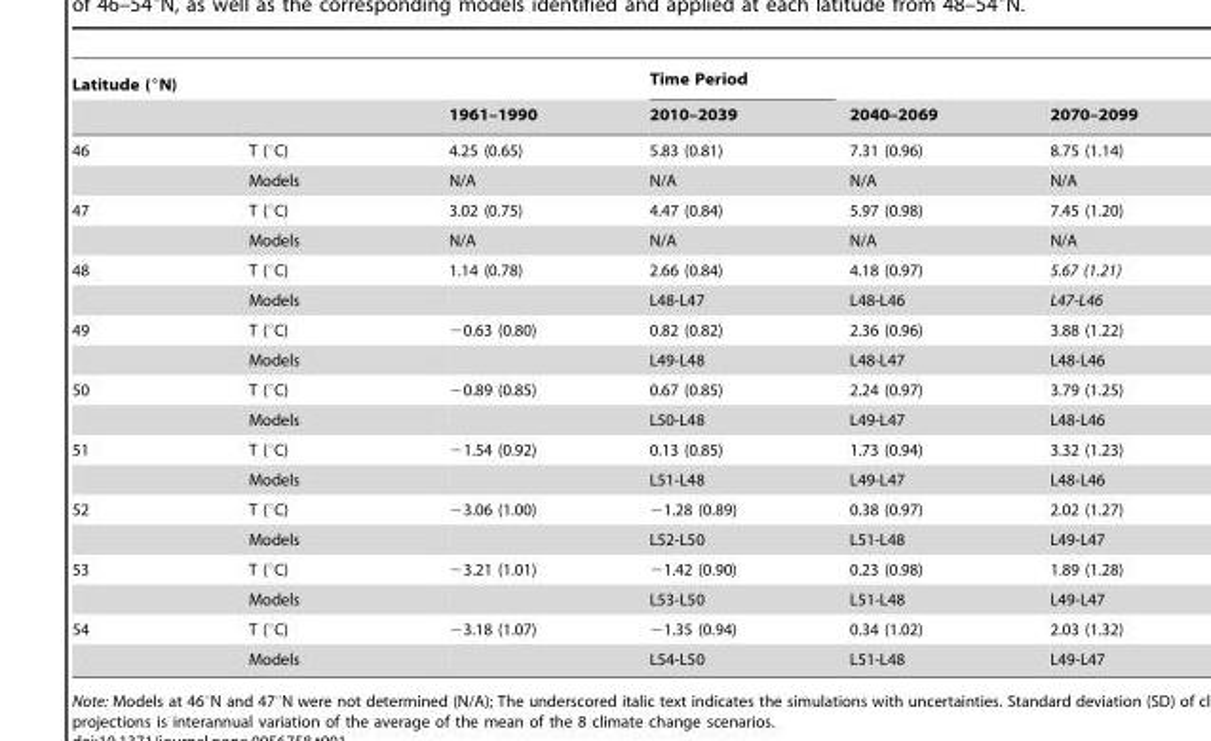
<table><thead><tr><td rowspan="2">Latitude (°N)</td><td rowspan="2"></td><td rowspan="2">1961–1990</td><td rowspan="2">Time Period 2010–2039</td><td rowspan="2">2040–2069</td><td rowspan="2">2070–2099</td></tr><tr></tr></thead><tbody><tr><td rowspan="2">46</td><td>T (°C)</td><td>4.25 (0.65)</td><td>5.83 (0.81)</td><td>7.31 (0.96)</td><td>8.75 (1.14)</td></tr><tr><td>Models</td><td>N/A</td><td>N/A</td><td>N/A</td><td>N/A</td></tr><tr><td rowspan="2">47</td><td>T (°C)</td><td>3.02 (0.75)</td><td>4.47 (0.84)</td><td>5.97 (0.98)</td><td>7.45 (1.20)</td></tr><tr><td>Models</td><td>N/A</td><td>N/A</td><td>N/A</td><td>N/A</td></tr><tr><td rowspan="2">48</td><td>T (°C)</td><td>1.14 (0.78)</td><td>2.66 (0.84)</td><td>4.18 (0.97)</td><td>5.67 (1.21)</td></tr><tr><td>Models</td><td></td><td>L48-L47</td><td>L48-L46</td><td>L47-L46</td></tr><tr><td rowspan="2">49</td><td>T (°C)</td><td>−0.63 (0.80)</td><td>0.82 (0.82)</td><td>2.36 (0.96)</td><td>3.88 (1.22)</td></tr><tr><td>Models</td><td></td><td>L49-L48</td><td>L48-L47</td><td>L48-L46</td></tr><tr><td rowspan="2">50</td><td>T (°C)</td><td>−0.89 (0.85)</td><td>0.67 (0.85)</td><td>2.24 (0.97)</td><td>3.79 (1.25)</td></tr><tr><td>Models</td><td></td><td>L50-L48</td><td>L49-L47</td><td>L48-L46</td></tr><tr><td rowspan="2">51</td><td>T (°C)</td><td>−1.54 (0.92)</td><td>0.13 (0.85)</td><td>1.73 (0.94)</td><td>3.32 (1.23)</td></tr><tr><td>Models</td><td></td><td>L51-L48</td><td>L49-L47</td><td>L48-L46</td></tr><tr><td rowspan="2">52</td><td>T (°C)</td><td>−3.06 (1.00)</td><td>−1.28 (0.89)</td><td>0.38 (0.97)</td><td>2.02 (1.27)</td></tr><tr><td>Models</td><td></td><td>L52-L50</td><td>L51-L48</td><td>L49-L47</td></tr><tr><td rowspan="2">53</td><td>T (°C)</td><td>−3.21 (1.01)</td><td>−1.42 (0.90)</td><td>0.23 (0.98)</td><td>1.89 (1.28)</td></tr><tr><td>Models</td><td></td><td>L53-L50</td><td>L51-L48</td><td>L49-L47</td></tr><tr><td rowspan="2">54</td><td>T (°C)</td><td>−3.18 (1.07)</td><td>−1.35 (0.94)</td><td>0.34 (1.02)</td><td>2.03 (1.32)</td></tr><tr><td>Models</td><td></td><td>L54-L50</td><td>L51-L48</td><td>L49-L47</td></tr></tbody></table>